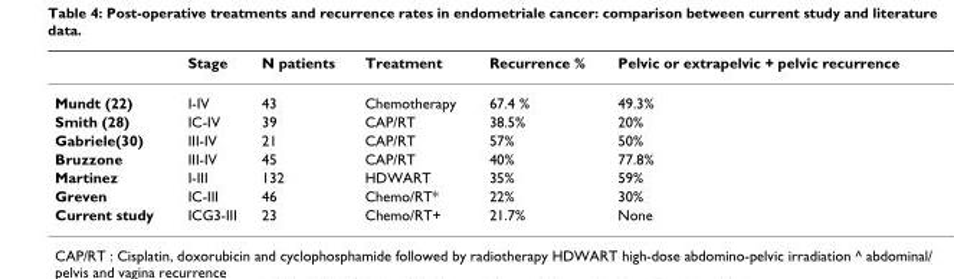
<table><thead><tr><td></td><td>Stage</td><td>N patients</td><td>Treatment</td><td>Recurrence %</td><td>Pelvic or extrapelvic + pelvic recurrence</td></tr></thead><tbody><tr><td>Mundt (22)</td><td>I-IV</td><td>43</td><td>Chemotherapy</td><td>67.4 %</td><td>49.3%</td></tr><tr><td>Smith (28)</td><td>IC-IV</td><td>39</td><td>CAP/RT</td><td>38.5%</td><td>20%</td></tr><tr><td>Gabriele(30)</td><td>III-IV</td><td>21</td><td>CAP/RT</td><td>57%</td><td>50%</td></tr><tr><td>Bruzzone</td><td>III-IV</td><td>45</td><td>CAP/RT</td><td>40%</td><td>77.8%</td></tr><tr><td>Martinez</td><td>I-III</td><td>132</td><td>HDWART</td><td>35%</td><td>59%</td></tr><tr><td>Greven</td><td>IC-III</td><td>46</td><td>Chemo/RT*</td><td>22%</td><td>30%</td></tr><tr><td>Current study</td><td>ICG3-III</td><td>23</td><td>Chemo/RT+</td><td>21.7%</td><td>None</td></tr></tbody></table>